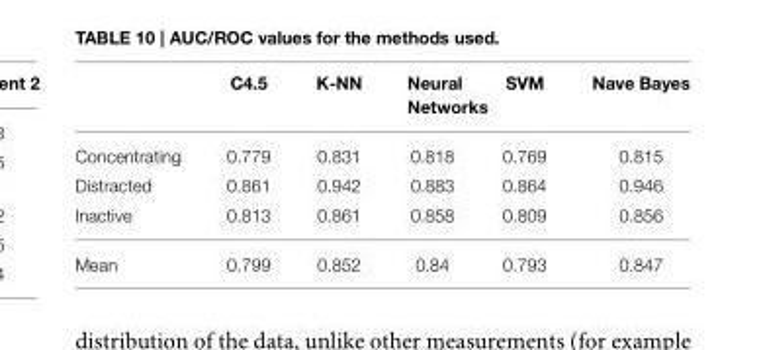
<table><thead><tr><td></td><td>C4.5</td><td>K-NN</td><td>Neural Networks</td><td>SVM</td><td>Nave Bayes</td></tr></thead><tbody><tr><td>Concentrating</td><td>0.779</td><td>0.831</td><td>0.818</td><td>0.769</td><td>0.815</td></tr><tr><td>Distracted</td><td>0.861</td><td>0.942</td><td>0.883</td><td>0.864</td><td>0.946</td></tr><tr><td>Inactive</td><td>0.813</td><td>0.861</td><td>0.858</td><td>0.809</td><td>0.856</td></tr><tr><td>Mean</td><td>0.799</td><td>0.852</td><td>0.84</td><td>0.793</td><td>0.847</td></tr></tbody></table>